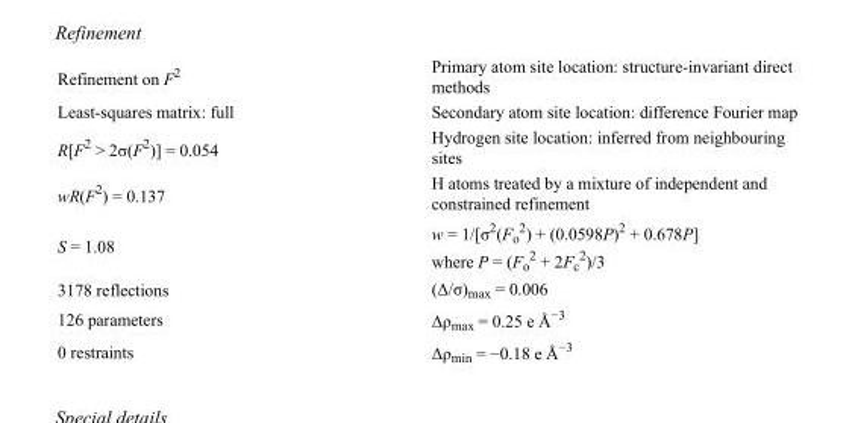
<table><tbody><tr><td>Refinement on F<sup>2</sup></td><td>Primary atom site location: structure-invariant direct methods</td></tr><tr><td>Least-squares matrix: full</td><td>Secondary atom site location: difference Fourier map</td></tr><tr><td>R[F<sup>2</sup> &gt; 2σ(F<sup>2</sup>)] = 0.054</td><td>Hydrogen site location: inferred from neighbouring sites</td></tr><tr><td>wR(F<sup>2</sup>) = 0.137</td><td>H atoms treated by a mixture of independent and constrained refinement</td></tr><tr><td>S = 1.08</td><td>w = 1/[σ<sup>2</sup>(F<sub>o</sub> <sup>2</sup>) + (0.0598P)<sup>2</sup> + 0.678P] where P = (F<sub>o</sub> <sup>2</sup> + 2F<sub>c</sub> <sup>2</sup>)/3</td></tr><tr><td>3178 reflections</td><td>(Δ/σ)<sub>max</sub> = 0.006</td></tr><tr><td>126 parameters</td><td>Δρ<sub>max</sub> = 0.25 e Å<sup>−3</sup></td></tr><tr><td>0 restraints</td><td>Δρ<sub>min</sub> = −0.18 e Å<sup>−3</sup></td></tr></tbody></table>